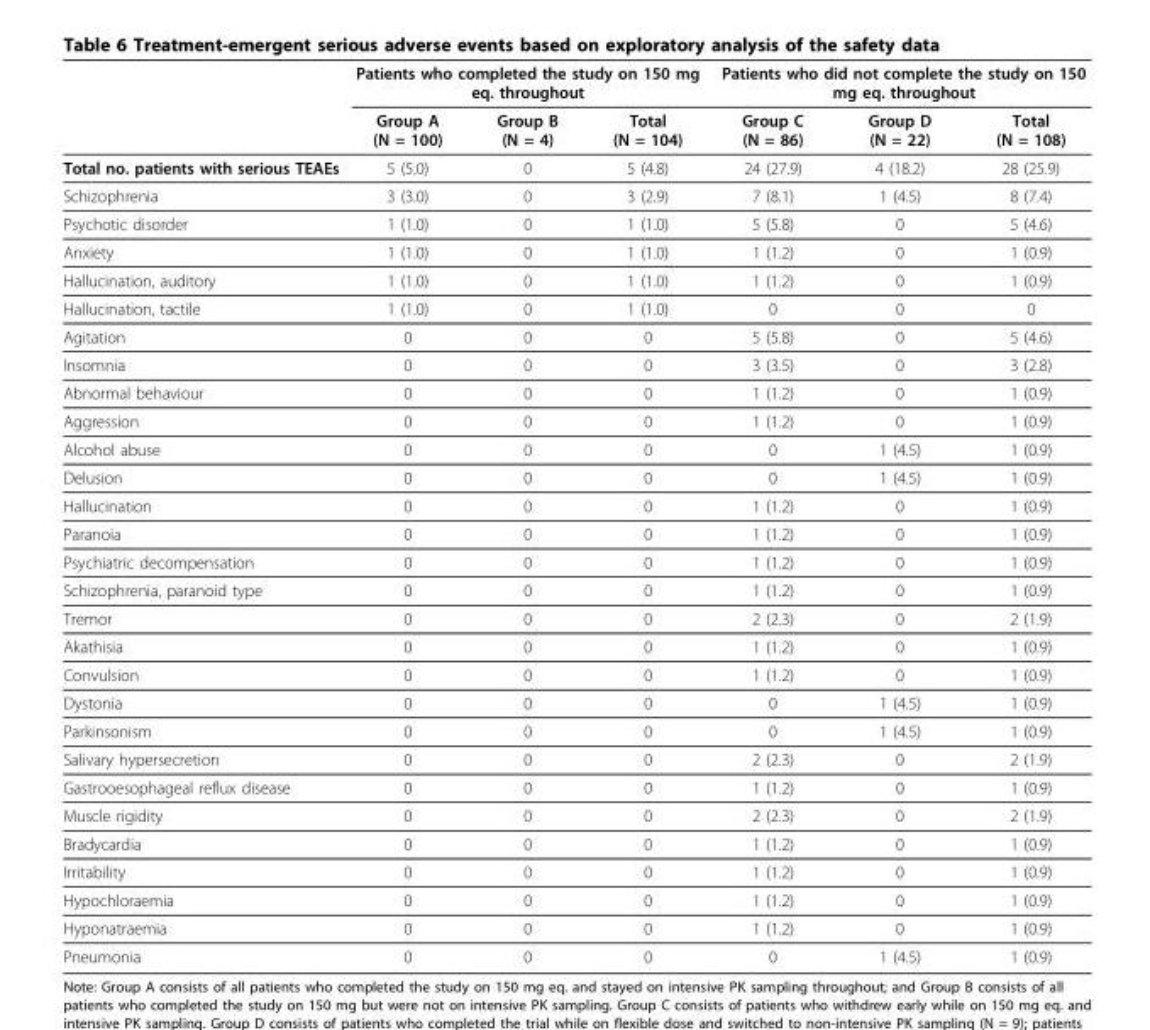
<table><thead><tr><td rowspan="2"></td><td colspan="3">Patients who completed the study on 150 mg eq. throughout</td><td colspan="3">Patients who did not complete the study on 150 mg eq. throughout</td></tr><tr><td>Group A (N = 100)</td><td>Group B (N = 4)</td><td>Total (N = 104)</td><td>Group C (N = 86)</td><td>Group D (N = 22)</td><td>Total (N = 108)</td></tr></thead><tbody><tr><td>Total no. patients with serious TEAEs</td><td>5 (5.0)</td><td>0</td><td>5 (4.8)</td><td>24 (27.9)</td><td>4 (18.2)</td><td>28 (25.9)</td></tr><tr><td>Schizophrenia</td><td>3 (3.0)</td><td>0</td><td>3 (2.9)</td><td>7 (8.1)</td><td>1 (4.5)</td><td>8 (7.4)</td></tr><tr><td>Psychotic disorder</td><td>1 (1.0)</td><td>0</td><td>1 (1.0)</td><td>5 (5.8)</td><td>0</td><td>5 (4.6)</td></tr><tr><td>Anxiety</td><td>1 (1.0)</td><td>0</td><td>1 (1.0)</td><td>1 (1.2)</td><td>0</td><td>1 (0.9)</td></tr><tr><td>Hallucination, auditory</td><td>1 (1.0)</td><td>0</td><td>1 (1.0)</td><td>1 (1.2)</td><td>0</td><td>1 (0.9)</td></tr><tr><td>Hallucination, tactile</td><td>1 (1.0)</td><td>0</td><td>1 (1.0)</td><td>0</td><td>0</td><td>0</td></tr><tr><td>Agitation</td><td>0</td><td>0</td><td>0</td><td>5 (5.8)</td><td>0</td><td>5 (4.6)</td></tr><tr><td>Insomnia</td><td>0</td><td>0</td><td>0</td><td>3 (3.5)</td><td>0</td><td>3 (2.8)</td></tr><tr><td>Abnormal behaviour</td><td>0</td><td>0</td><td>0</td><td>1 (1.2)</td><td>0</td><td>1 (0.9)</td></tr><tr><td>Aggression</td><td>0</td><td>0</td><td>0</td><td>1 (1.2)</td><td>0</td><td>1 (0.9)</td></tr><tr><td>Alcohol abuse</td><td>0</td><td>0</td><td>0</td><td>0</td><td>1 (4.5)</td><td>1 (0.9)</td></tr><tr><td>Delusion</td><td>0</td><td>0</td><td>0</td><td>0</td><td>1 (4.5)</td><td>1 (0.9)</td></tr><tr><td>Hallucination</td><td>0</td><td>0</td><td>0</td><td>1 (1.2)</td><td>0</td><td>1 (0.9)</td></tr><tr><td>Paranoia</td><td>0</td><td>0</td><td>0</td><td>1 (1.2)</td><td>0</td><td>1 (0.9)</td></tr><tr><td>Psychiatric decompensation</td><td>0</td><td>0</td><td>0</td><td>1 (1.2)</td><td>0</td><td>1 (0.9)</td></tr><tr><td>Schizophrenia, paranoid type</td><td>0</td><td>0</td><td>0</td><td>1 (1.2)</td><td>0</td><td>1 (0.9)</td></tr><tr><td>Tremor</td><td>0</td><td>0</td><td>0</td><td>2 (2.3)</td><td>0</td><td>2 (1.9)</td></tr><tr><td>Akathisia</td><td>0</td><td>0</td><td>0</td><td>1 (1.2)</td><td>0</td><td>1 (0.9)</td></tr><tr><td>Convulsion</td><td>0</td><td>0</td><td>0</td><td>1 (1.2)</td><td>0</td><td>1 (0.9)</td></tr><tr><td>Dystonia</td><td>0</td><td>0</td><td>0</td><td>0</td><td>1 (4.5)</td><td>1 (0.9)</td></tr><tr><td>Parkinsonism</td><td>0</td><td>0</td><td>0</td><td>0</td><td>1 (4.5)</td><td>1 (0.9)</td></tr><tr><td>Salivary hypersecretion</td><td>0</td><td>0</td><td>0</td><td>2 (2.3)</td><td>0</td><td>2 (1.9)</td></tr><tr><td>Gastrooesophageal reflux disease</td><td>0</td><td>0</td><td>0</td><td>1 (1.2)</td><td>0</td><td>1 (0.9)</td></tr><tr><td>Muscle rigidity</td><td>0</td><td>0</td><td>0</td><td>2 (2.3)</td><td>0</td><td>2 (1.9)</td></tr><tr><td>Bradycardia</td><td>0</td><td>0</td><td>0</td><td>1 (1.2)</td><td>0</td><td>1 (0.9)</td></tr><tr><td>Irritability</td><td>0</td><td>0</td><td>0</td><td>1 (1.2)</td><td>0</td><td>1 (0.9)</td></tr><tr><td>Hypochloraemia</td><td>0</td><td>0</td><td>0</td><td>1 (1.2)</td><td>0</td><td>1 (0.9)</td></tr><tr><td>Hyponatraemia</td><td>0</td><td>0</td><td>0</td><td>1 (1.2)</td><td>0</td><td>1 (0.9)</td></tr><tr><td>Pneumonia</td><td>0</td><td>0</td><td>0</td><td>0</td><td>1 (4.5)</td><td>1 (0.9)</td></tr></tbody></table>